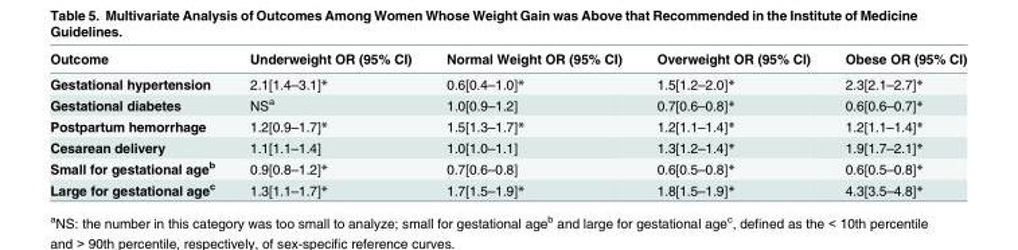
<table><thead><tr><td>Outcome</td><td>Underweight OR (95% CI)</td><td>Normal Weight OR (95% CI)</td><td>Overweight OR (95% CI)</td><td>Obese OR (95% CI)</td></tr></thead><tbody><tr><td>Gestational hypertension</td><td>2.1[1.4–3.1]*</td><td>0.6[0.4–1.0]*</td><td>1.5[1.2–2.0]*</td><td>2.3[2.1–2.7]*</td></tr><tr><td>Gestational diabetes</td><td>NS<sup>a</sup></td><td>1.0[0.9–1.2]</td><td>0.7[0.6–0.8]*</td><td>0.6[0.6–0.7]*</td></tr><tr><td>Postpartum hemorrhage</td><td>1.2[0.9–1.7]*</td><td>1.5[1.3–1.7]*</td><td>1.2[1.1–1.4]*</td><td>1.2[1.1–1.4]*</td></tr><tr><td>Cesarean delivery</td><td>1.1[1.1–1.4]</td><td>1.0[1.0–1.1]</td><td>1.3[1.2–1.4]*</td><td>1.9[1.7–2.1]*</td></tr><tr><td>Small for gestational age<sup>b</sup></td><td>0.9[0.8–1.2]*</td><td>0.7[0.6–0.8]</td><td>0.6[0.5–0.8]*</td><td>0.6[0.5–0.8]*</td></tr><tr><td>Large for gestational age<sup>c</sup></td><td>1.3[1.1–1.7]*</td><td>1.7[1.5–1.9]*</td><td>1.8[1.5–1.9]*</td><td>4.3[3.5–4.8]*</td></tr></tbody></table>